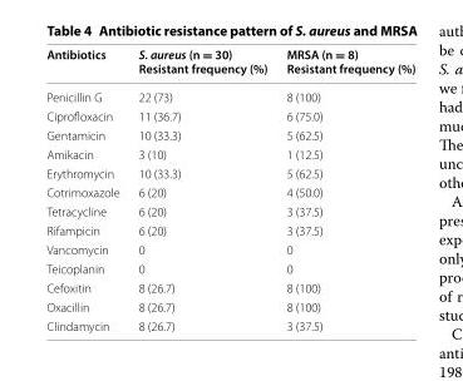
<table><thead><tr><td>Antibiotics</td><td>S. aureus (n = 30) Resistant frequency (%)</td><td>MRSA (n = 8) Resistant frequency (%)</td></tr></thead><tbody><tr><td>Penicillin G</td><td>22 (73)</td><td>8 (100)</td></tr><tr><td>Ciprofloxacin</td><td>11 (36.7)</td><td>6 (75.0)</td></tr><tr><td>Gentamicin</td><td>10 (33.3)</td><td>5 (62.5)</td></tr><tr><td>Amikacin</td><td>3 (10)</td><td>1 (12.5)</td></tr><tr><td>Erythromycin</td><td>10 (33.3)</td><td>5 (62.5)</td></tr><tr><td>Cotrimoxazole</td><td>6 (20)</td><td>4 (50.0)</td></tr><tr><td>Tetracycline</td><td>6 (20)</td><td>3 (37.5)</td></tr><tr><td>Rifampicin</td><td>6 (20)</td><td>3 (37.5)</td></tr><tr><td>Vancomycin</td><td>0</td><td>0</td></tr><tr><td>Teicoplanin</td><td>0</td><td>0</td></tr><tr><td>Cefoxitin</td><td>8 (26.7)</td><td>8 (100)</td></tr><tr><td>Oxacillin</td><td>8 (26.7)</td><td>8 (100)</td></tr><tr><td>Clindamycin</td><td>8 (26.7)</td><td>3 (37.5)</td></tr></tbody></table>